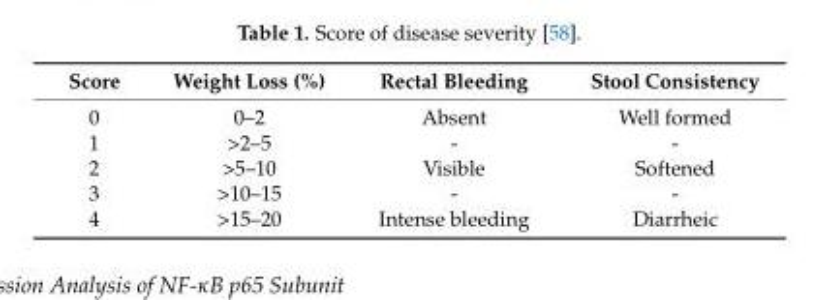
<table><thead><tr><td>Score</td><td>Weight Loss (%)</td><td>Rectal Bleeding</td><td>Stool Consistency</td></tr></thead><tbody><tr><td>0</td><td>0–2</td><td>Absent</td><td>Well formed</td></tr><tr><td>1</td><td>&gt;2–5</td><td>-</td><td>-</td></tr><tr><td>2</td><td>&gt;5–10</td><td>Visible</td><td>Softened</td></tr><tr><td>3</td><td>&gt;10–15</td><td>-</td><td>-</td></tr><tr><td>4</td><td>&gt;15–20</td><td>Intense bleeding</td><td>Diarrheic</td></tr></tbody></table>